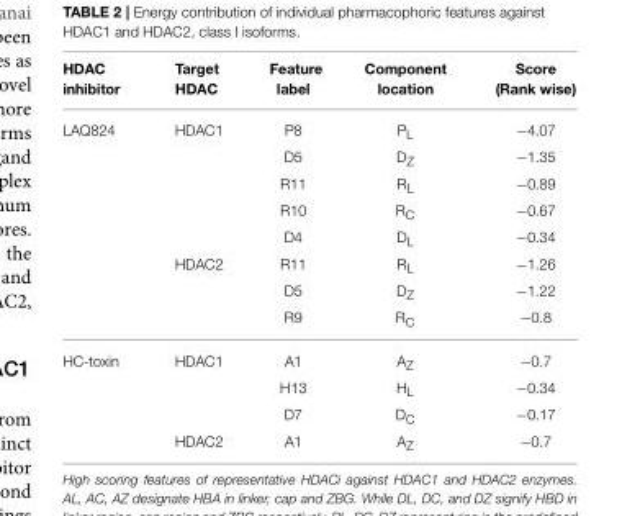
<table><thead><tr><td>HDAC inhibitor</td><td>Target HDAC</td><td>Feature label</td><td>Component location</td><td>Score (Rank wise)</td></tr></thead><tbody><tr><td rowspan="8">LAQ824</td><td>HDAC1</td><td>P8</td><td>P<sub>L</sub></td><td>−4.07</td></tr><tr><td></td><td>D5</td><td>D<sub>Z</sub></td><td>−1.35</td></tr><tr><td></td><td>R11</td><td>R<sub>L</sub></td><td>−0.89</td></tr><tr><td></td><td>R10</td><td>R<sub>C</sub></td><td>−0.67</td></tr><tr><td></td><td>D4</td><td>D<sub>L</sub></td><td>−0.34</td></tr><tr><td>HDAC2</td><td>R11</td><td>R<sub>L</sub></td><td>−1.26</td></tr><tr><td></td><td>D5</td><td>D<sub>Z</sub></td><td>−1.22</td></tr><tr><td></td><td>R9</td><td>R<sub>C</sub></td><td>−0.8</td></tr><tr><td rowspan="4">HC-toxin</td><td>HDAC1</td><td>A1</td><td>A<sub>Z</sub></td><td>−0.7</td></tr><tr><td></td><td>H13</td><td>H<sub>L</sub></td><td>−0.34</td></tr><tr><td></td><td>D7</td><td>D<sub>C</sub></td><td>−0.17</td></tr><tr><td>HDAC2</td><td>A1</td><td>A<sub>Z</sub></td><td>−0.7</td></tr></tbody></table>